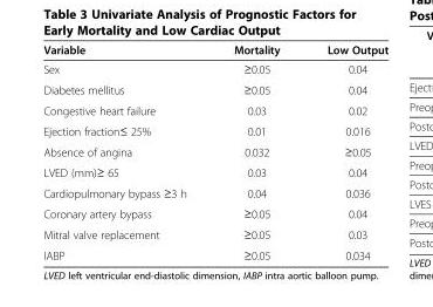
<table><thead><tr><td>Variable</td><td>Mortality</td><td>Low Output</td></tr></thead><tbody><tr><td>Sex</td><td>≥0.05</td><td>0.04</td></tr><tr><td>Diabetes mellitus</td><td>≥0.05</td><td>0.04</td></tr><tr><td>Congestive heart failure</td><td>0.03</td><td>0.02</td></tr><tr><td>Ejection fraction≤ 25%</td><td>0.01</td><td>0.016</td></tr><tr><td>Absence of angina</td><td>0.032</td><td>≥0.05</td></tr><tr><td>LVED (mm)≥ 65</td><td>0.03</td><td>0.04</td></tr><tr><td>Cardiopulmonary bypass ≥3 h</td><td>0.04</td><td>0.036</td></tr><tr><td>Coronary artery bypass</td><td>≥0.05</td><td>0.04</td></tr><tr><td>Mitral valve replacement</td><td>≥0.05</td><td>0.03</td></tr><tr><td>IABP</td><td>≥0.05</td><td>0.034</td></tr></tbody></table>